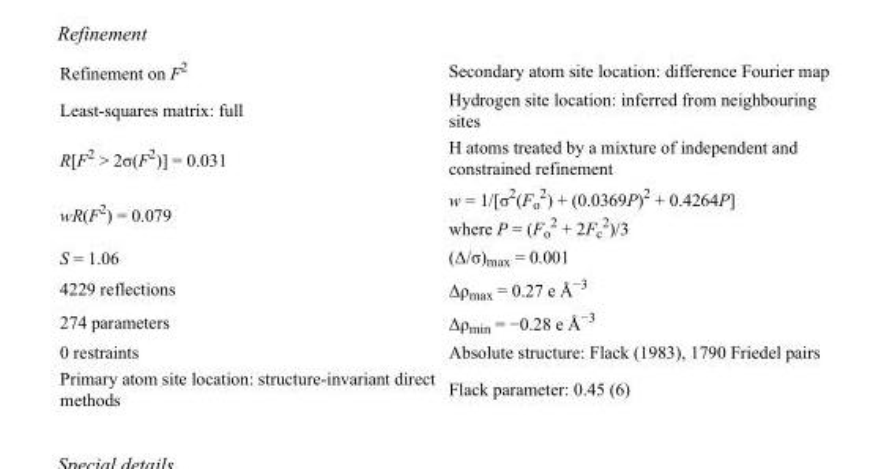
<table><tbody><tr><td>Refinement on F<sup>2</sup></td><td>Secondary atom site location: difference Fourier map</td></tr><tr><td>Least-squares matrix: full</td><td>Hydrogen site location: inferred from neighbouring sites</td></tr><tr><td>R[F<sup>2</sup> &gt; 2σ(F<sup>2</sup>)] = 0.031</td><td>H atoms treated by a mixture of independent and constrained refinement</td></tr><tr><td>wR(F<sup>2</sup>) = 0.079</td><td>w = 1/[σ<sup>2</sup>(F<sub>o</sub> <sup>2</sup>) + (0.0369P)<sup>2</sup> + 0.4264P] where P = (F<sub>o</sub> <sup>2</sup> + 2F<sub>c</sub> <sup>2</sup>)/3</td></tr><tr><td>S = 1.06</td><td>(Δ/σ)<sub>max</sub> = 0.001</td></tr><tr><td>4229 reflections</td><td>Δρ<sub>max</sub> = 0.27 e Å<sup>−3</sup></td></tr><tr><td>274 parameters</td><td>Δρ<sub>min</sub> = −0.28 e Å<sup>−3</sup></td></tr><tr><td>0 restraints</td><td>Absolute structure: Flack (1983), 1790 Friedel pairs</td></tr><tr><td>Primary atom site location: structure-invariant direct methods</td><td>Flack parameter: 0.45 (6)</td></tr></tbody></table>